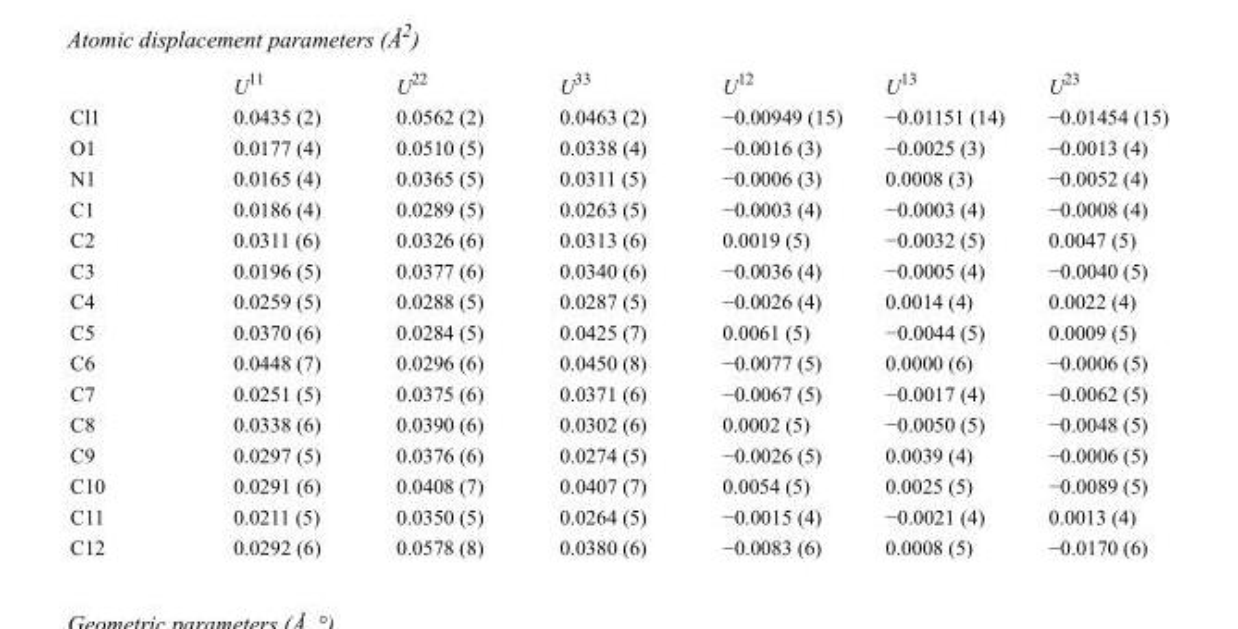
<table><thead><tr><td></td><td>U<sup>11</sup></td><td>U<sup>22</sup></td><td>U<sup>33</sup></td><td>U<sup>12</sup></td><td>U<sup>13</sup></td><td>U<sup>23</sup></td></tr></thead><tbody><tr><td>Cl1</td><td>0.0435 (2)</td><td>0.0562 (2)</td><td>0.0463 (2)</td><td>−0.00949 (15)</td><td>−0.01151 (14)</td><td>−0.01454 (15)</td></tr><tr><td>O1</td><td>0.0177 (4)</td><td>0.0510 (5)</td><td>0.0338 (4)</td><td>−0.0016 (3)</td><td>−0.0025 (3)</td><td>−0.0013 (4)</td></tr><tr><td>N1</td><td>0.0165 (4)</td><td>0.0365 (5)</td><td>0.0311 (5)</td><td>−0.0006 (3)</td><td>0.0008 (3)</td><td>−0.0052 (4)</td></tr><tr><td>C1</td><td>0.0186 (4)</td><td>0.0289 (5)</td><td>0.0263 (5)</td><td>−0.0003 (4)</td><td>−0.0003 (4)</td><td>−0.0008 (4)</td></tr><tr><td>C2</td><td>0.0311 (6)</td><td>0.0326 (6)</td><td>0.0313 (6)</td><td>0.0019 (5)</td><td>−0.0032 (5)</td><td>0.0047 (5)</td></tr><tr><td>C3</td><td>0.0196 (5)</td><td>0.0377 (6)</td><td>0.0340 (6)</td><td>−0.0036 (4)</td><td>−0.0005 (4)</td><td>−0.0040 (5)</td></tr><tr><td>C4</td><td>0.0259 (5)</td><td>0.0288 (5)</td><td>0.0287 (5)</td><td>−0.0026 (4)</td><td>0.0014 (4)</td><td>0.0022 (4)</td></tr><tr><td>C5</td><td>0.0370 (6)</td><td>0.0284 (5)</td><td>0.0425 (7)</td><td>0.0061 (5)</td><td>−0.0044 (5)</td><td>0.0009 (5)</td></tr><tr><td>C6</td><td>0.0448 (7)</td><td>0.0296 (6)</td><td>0.0450 (8)</td><td>−0.0077 (5)</td><td>0.0000 (6)</td><td>−0.0006 (5)</td></tr><tr><td>C7</td><td>0.0251 (5)</td><td>0.0375 (6)</td><td>0.0371 (6)</td><td>−0.0067 (5)</td><td>−0.0017 (4)</td><td>−0.0062 (5)</td></tr><tr><td>C8</td><td>0.0338 (6)</td><td>0.0390 (6)</td><td>0.0302 (6)</td><td>0.0002 (5)</td><td>−0.0050 (5)</td><td>−0.0048 (5)</td></tr><tr><td>C9</td><td>0.0297 (5)</td><td>0.0376 (6)</td><td>0.0274 (5)</td><td>−0.0026 (5)</td><td>0.0039 (4)</td><td>−0.0006 (5)</td></tr><tr><td>C10</td><td>0.0291 (6)</td><td>0.0408 (7)</td><td>0.0407 (7)</td><td>0.0054 (5)</td><td>0.0025 (5)</td><td>−0.0089 (5)</td></tr><tr><td>C11</td><td>0.0211 (5)</td><td>0.0350 (5)</td><td>0.0264 (5)</td><td>−0.0015 (4)</td><td>−0.0021 (4)</td><td>0.0013 (4)</td></tr><tr><td>C12</td><td>0.0292 (6)</td><td>0.0578 (8)</td><td>0.0380 (6)</td><td>−0.0083 (6)</td><td>0.0008 (5)</td><td>−0.0170 (6)</td></tr></tbody></table>